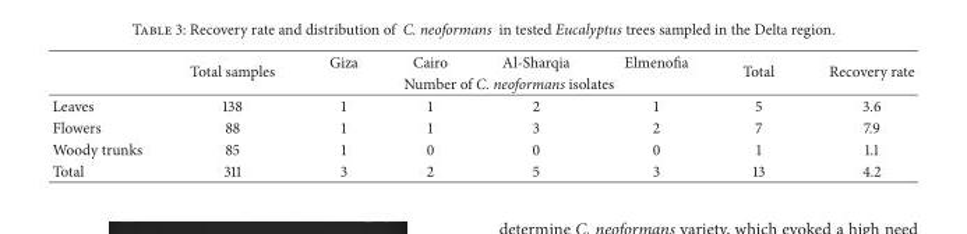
<table><thead><tr><td rowspan="2"></td><td rowspan="2">Total samples</td><td>Giza</td><td>Cairo</td><td>Al-Sharqia</td><td>Elmenofia</td><td rowspan="2">Total</td><td rowspan="2">Recovery rate</td></tr><tr><td colspan="4">Number of C. neoformans isolates</td></tr></thead><tbody><tr><td>Leaves</td><td>138</td><td>1</td><td>1</td><td>2</td><td>1</td><td>5</td><td>3.6</td></tr><tr><td>Flowers</td><td>88</td><td>1</td><td>1</td><td>3</td><td>2</td><td>7</td><td>7.9</td></tr><tr><td>Woody trunks</td><td>85</td><td>1</td><td>0</td><td>0</td><td>0</td><td>1</td><td>1.1</td></tr><tr><td>Total</td><td>311</td><td>3</td><td>2</td><td>5</td><td>3</td><td>13</td><td>4.2</td></tr></tbody></table>